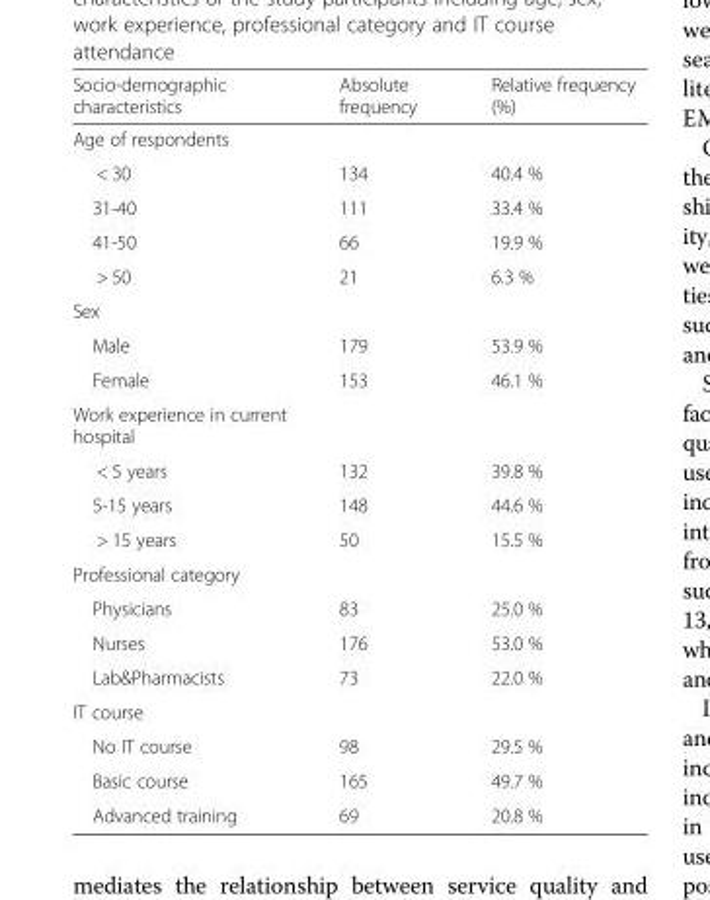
<table><thead><tr><td>Socio-demographic characteristics</td><td>Absolute frequency</td><td>Relative frequency (%)</td></tr></thead><tbody><tr><td colspan="3">Age of respondents</td></tr><tr><td>&lt; 30</td><td>134</td><td>40.4 %</td></tr><tr><td>31-40</td><td>111</td><td>33.4 %</td></tr><tr><td>41-50</td><td>66</td><td>19.9 %</td></tr><tr><td>&gt; 50</td><td>21</td><td>6.3 %</td></tr><tr><td colspan="3">Sex</td></tr><tr><td>Male</td><td>179</td><td>53.9 %</td></tr><tr><td>Female</td><td>153</td><td>46.1 %</td></tr><tr><td colspan="3">Work experience in current hospital</td></tr><tr><td>&lt; 5 years</td><td>132</td><td>39.8 %</td></tr><tr><td>5-15 years</td><td>148</td><td>44.6 %</td></tr><tr><td>&gt; 15 years</td><td>50</td><td>15.5 %</td></tr><tr><td colspan="3">Professional category</td></tr><tr><td>Physicians</td><td>83</td><td>25.0 %</td></tr><tr><td>Nurses</td><td>176</td><td>53.0 %</td></tr><tr><td>Lab&amp;Pharmacists</td><td>73</td><td>22.0 %</td></tr><tr><td colspan="3">IT course</td></tr><tr><td>No IT course</td><td>98</td><td>29.5 %</td></tr><tr><td>Basic course</td><td>165</td><td>49.7 %</td></tr><tr><td>Advanced training</td><td>69</td><td>20.8 %</td></tr></tbody></table>